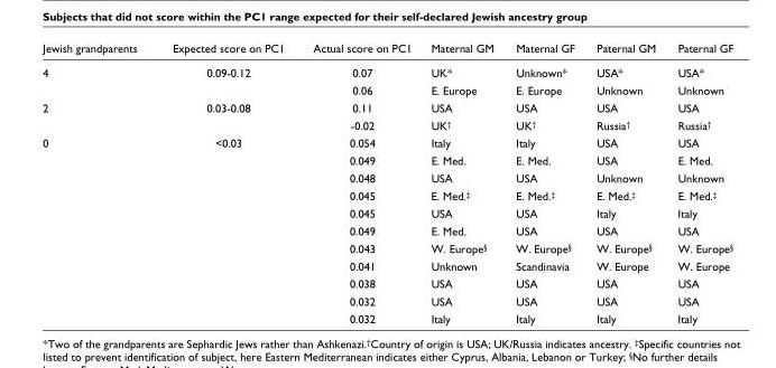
<table><thead><tr><td>Jewish grandparents</td><td>Expected score on PC1</td><td>Actual score on PC1</td><td>Maternal GM</td><td>Maternal GF</td><td>Paternal GM</td><td>Paternal GF</td></tr></thead><tbody><tr><td rowspan="2">4</td><td>0.09-0.12</td><td>0.07</td><td>UK*</td><td>Unknown*</td><td>USA*</td><td>USA*</td></tr><tr><td></td><td>0.06</td><td>E. Europe</td><td>E. Europe</td><td>Unknown</td><td>Unknown</td></tr><tr><td rowspan="2">2</td><td>0.03-0.08</td><td>0.11</td><td>USA</td><td>USA</td><td>USA</td><td>USA</td></tr><tr><td></td><td>-0.02</td><td>UK<sup>†</sup></td><td>UK<sup>†</sup></td><td>Russia<sup>†</sup></td><td>Russia<sup>†</sup></td></tr><tr><td rowspan="11">0</td><td>&lt;0.03</td><td>0.054</td><td>Italy</td><td>Italy</td><td>USA</td><td>USA</td></tr><tr><td></td><td>0.049</td><td>E. Med.</td><td>E. Med.</td><td>USA</td><td>E. Med.</td></tr><tr><td></td><td>0.048</td><td>USA</td><td>USA</td><td>Unknown</td><td>Unknown</td></tr><tr><td></td><td>0.045</td><td>E. Med.<sup>‡</sup></td><td>E. Med.<sup>‡</sup></td><td>E. Med.<sup>‡</sup></td><td>E. Med.<sup>‡</sup></td></tr><tr><td></td><td>0.045</td><td>USA</td><td>USA</td><td>Italy</td><td>Italy</td></tr><tr><td></td><td>0.049</td><td>E. Med.</td><td>USA</td><td>USA</td><td>USA</td></tr><tr><td></td><td>0.043</td><td>W. Europe<sup>§</sup></td><td>W. Europe<sup>§</sup></td><td>W. Europe<sup>§</sup></td><td>W. Europe<sup>§</sup></td></tr><tr><td></td><td>0.041</td><td>Unknown</td><td>Scandinavia</td><td>W. Europe</td><td>W. Europe</td></tr><tr><td></td><td>0.038</td><td>USA</td><td>USA</td><td>USA</td><td>USA</td></tr><tr><td></td><td>0.032</td><td>USA</td><td>USA</td><td>USA</td><td>USA</td></tr><tr><td></td><td>0.032</td><td>Italy</td><td>Italy</td><td>Italy</td><td>Italy</td></tr></tbody></table>